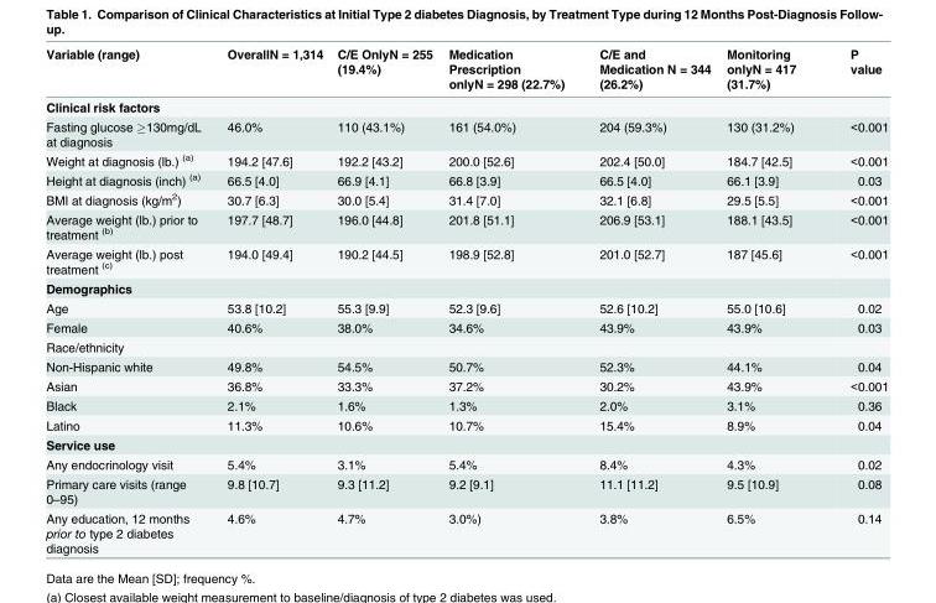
<table><thead><tr><td>Variable (range)</td><td>OverallN = 1,314</td><td>C/E OnlyN = 255 (19.4%)</td><td>Medication Prescription onlyN = 298 (22.7%)</td><td>C/E and Medication N = 344 (26.2%)</td><td>Monitoring onlyN = 417 (31.7%)</td><td>P value</td></tr></thead><tbody><tr><td colspan="7">Clinical risk factors</td></tr><tr><td>Fasting glucose ≥130mg/dL at diagnosis</td><td>46.0%</td><td>110 (43.1%)</td><td>161 (54.0%)</td><td>204 (59.3%)</td><td>130 (31.2%)</td><td>&lt;0.001</td></tr><tr><td>Weight at diagnosis (lb.) <sup>(a)</sup></td><td>194.2 [47.6]</td><td>192.2 [43.2]</td><td>200.0 [52.6]</td><td>202.4 [50.0]</td><td>184.7 [42.5]</td><td>&lt;0.001</td></tr><tr><td>Height at diagnosis (inch) <sup>(a)</sup></td><td>66.5 [4.0]</td><td>66.9 [4.1]</td><td>66.8 [3.9]</td><td>66.5 [4.0]</td><td>66.1 [3.9]</td><td>0.03</td></tr><tr><td>BMI at diagnosis (kg/m<sup>2</sup>)</td><td>30.7 [6.3]</td><td>30.0 [5.4]</td><td>31.4 [7.0]</td><td>32.1 [6.8]</td><td>29.5 [5.5]</td><td>&lt;0.001</td></tr><tr><td>Average weight (lb.) prior to treatment <sup>(b)</sup></td><td>197.7 [48.7]</td><td>196.0 [44.8]</td><td>201.8 [51.1]</td><td>206.9 [53.1]</td><td>188.1 [43.5]</td><td>&lt;0.001</td></tr><tr><td>Average weight (lb.) post treatment <sup>(c)</sup></td><td>194.0 [49.4]</td><td>190.2 [44.5]</td><td>198.9 [52.8]</td><td>201.0 [52.7]</td><td>187 [45.6]</td><td>&lt;0.001</td></tr><tr><td colspan="7">Demographics</td></tr><tr><td>Age</td><td>53.8 [10.2]</td><td>55.3 [9.9]</td><td>52.3 [9.6]</td><td>52.6 [10.2]</td><td>55.0 [10.6]</td><td>0.02</td></tr><tr><td>Female</td><td>40.6%</td><td>38.0%</td><td>34.6%</td><td>43.9%</td><td>43.9%</td><td>0.03</td></tr><tr><td colspan="7">Race/ethnicity</td></tr><tr><td>Non-Hispanic white</td><td>49.8%</td><td>54.5%</td><td>50.7%</td><td>52.3%</td><td>44.1%</td><td>0.04</td></tr><tr><td>Asian</td><td>36.8%</td><td>33.3%</td><td>37.2%</td><td>30.2%</td><td>43.9%</td><td>&lt;0.001</td></tr><tr><td>Black</td><td>2.1%</td><td>1.6%</td><td>1.3%</td><td>2.0%</td><td>3.1%</td><td>0.36</td></tr><tr><td>Latino</td><td>11.3%</td><td>10.6%</td><td>10.7%</td><td>15.4%</td><td>8.9%</td><td>0.04</td></tr><tr><td colspan="7">Service use</td></tr><tr><td>Any endocrinology visit</td><td>5.4%</td><td>3.1%</td><td>5.4%</td><td>8.4%</td><td>4.3%</td><td>0.02</td></tr><tr><td>Primary care visits (range 0–95)</td><td>9.8 [10.7]</td><td>9.3 [11.2]</td><td>9.2 [9.1]</td><td>11.1 [11.2]</td><td>9.5 [10.9]</td><td>0.08</td></tr><tr><td>Any education, 12 months prior to type 2 diabetes diagnosis</td><td>4.6%</td><td>4.7%</td><td>3.0%)</td><td>3.8%</td><td>6.5%</td><td>0.14</td></tr></tbody></table>